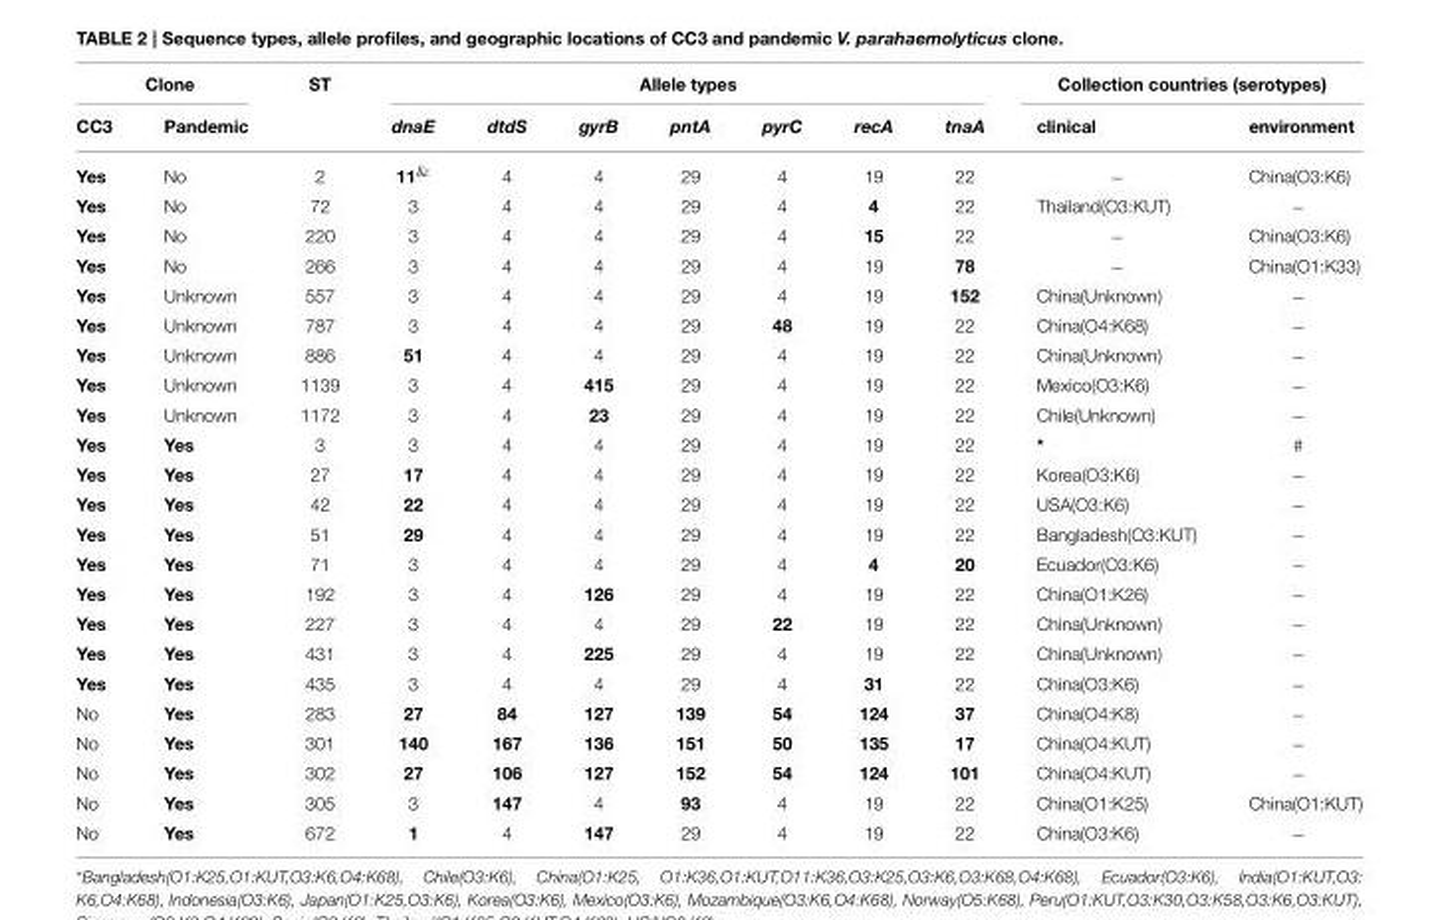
<table><thead><tr><td colspan="2">Clone</td><td rowspan="2">ST</td><td colspan="7">Allele types</td><td colspan="2">Collection countries (serotypes)</td></tr><tr><td>CC3</td><td>Pandemic</td><td>dnaE</td><td>dtdS</td><td>gyrB</td><td>pntA</td><td>pyrC</td><td>recA</td><td>tnaA</td><td>clinical</td><td>environment</td></tr></thead><tbody><tr><td>Yes</td><td>No</td><td>2</td><td>11<sup>&amp;</sup></td><td>4</td><td>4</td><td>29</td><td>4</td><td>19</td><td>22</td><td>−</td><td>China(O3:K6)</td></tr><tr><td>Yes</td><td>No</td><td>72</td><td>3</td><td>4</td><td>4</td><td>29</td><td>4</td><td>4</td><td>22</td><td>Thailand(O3:KUT)</td><td>−</td></tr><tr><td>Yes</td><td>No</td><td>220</td><td>3</td><td>4</td><td>4</td><td>29</td><td>4</td><td>15</td><td>22</td><td>−</td><td>China(O3:K6)</td></tr><tr><td>Yes</td><td>No</td><td>266</td><td>3</td><td>4</td><td>4</td><td>29</td><td>4</td><td>19</td><td>78</td><td>−</td><td>China(O1:K33)</td></tr><tr><td>Yes</td><td>Unknown</td><td>557</td><td>3</td><td>4</td><td>4</td><td>29</td><td>4</td><td>19</td><td>152</td><td>China(Unknown)</td><td>−</td></tr><tr><td>Yes</td><td>Unknown</td><td>787</td><td>3</td><td>4</td><td>4</td><td>29</td><td>48</td><td>19</td><td>22</td><td>China(O4:K68)</td><td>−</td></tr><tr><td>Yes</td><td>Unknown</td><td>886</td><td>51</td><td>4</td><td>4</td><td>29</td><td>4</td><td>19</td><td>22</td><td>China(Unknown)</td><td>−</td></tr><tr><td>Yes</td><td>Unknown</td><td>1139</td><td>3</td><td>4</td><td>415</td><td>29</td><td>4</td><td>19</td><td>22</td><td>Mexico(O3:K6)</td><td>−</td></tr><tr><td>Yes</td><td>Unknown</td><td>1172</td><td>3</td><td>4</td><td>23</td><td>29</td><td>4</td><td>19</td><td>22</td><td>Chile(Unknown)</td><td>−</td></tr><tr><td>Yes</td><td>Yes</td><td>3</td><td>3</td><td>4</td><td>4</td><td>29</td><td>4</td><td>19</td><td>22</td><td>*</td><td><sup>#</sup></td></tr><tr><td>Yes</td><td>Yes</td><td>27</td><td>17</td><td>4</td><td>4</td><td>29</td><td>4</td><td>19</td><td>22</td><td>Korea(O3:K6)</td><td>−</td></tr><tr><td>Yes</td><td>Yes</td><td>42</td><td>22</td><td>4</td><td>4</td><td>29</td><td>4</td><td>19</td><td>22</td><td>USA(O3:K6)</td><td>−</td></tr><tr><td>Yes</td><td>Yes</td><td>51</td><td>29</td><td>4</td><td>4</td><td>29</td><td>4</td><td>19</td><td>22</td><td>Bangladesh(O3:KUT)</td><td>−</td></tr><tr><td>Yes</td><td>Yes</td><td>71</td><td>3</td><td>4</td><td>4</td><td>29</td><td>4</td><td>4</td><td>20</td><td>Ecuador(O3:K6)</td><td>−</td></tr><tr><td>Yes</td><td>Yes</td><td>192</td><td>3</td><td>4</td><td>126</td><td>29</td><td>4</td><td>19</td><td>22</td><td>China(O1:K26)</td><td>−</td></tr><tr><td>Yes</td><td>Yes</td><td>227</td><td>3</td><td>4</td><td>4</td><td>29</td><td>22</td><td>19</td><td>22</td><td>China(Unknown)</td><td>−</td></tr><tr><td>Yes</td><td>Yes</td><td>431</td><td>3</td><td>4</td><td>225</td><td>29</td><td>4</td><td>19</td><td>22</td><td>China(Unknown)</td><td>−</td></tr><tr><td>Yes</td><td>Yes</td><td>435</td><td>3</td><td>4</td><td>4</td><td>29</td><td>4</td><td>31</td><td>22</td><td>China(O3:K6)</td><td>−</td></tr><tr><td>No</td><td>Yes</td><td>283</td><td>27</td><td>84</td><td>127</td><td>139</td><td>54</td><td>124</td><td>37</td><td>China(O4:K8)</td><td>−</td></tr><tr><td>No</td><td>Yes</td><td>301</td><td>140</td><td>167</td><td>136</td><td>151</td><td>50</td><td>135</td><td>17</td><td>China(O4:KUT)</td><td>−</td></tr><tr><td>No</td><td>Yes</td><td>302</td><td>27</td><td>106</td><td>127</td><td>152</td><td>54</td><td>124</td><td>101</td><td>China(O4:KUT)</td><td>−</td></tr><tr><td>No</td><td>Yes</td><td>305</td><td>3</td><td>147</td><td>4</td><td>93</td><td>4</td><td>19</td><td>22</td><td>China(O1:K25)</td><td>China(O1:KUT)</td></tr><tr><td>No</td><td>Yes</td><td>672</td><td>1</td><td>4</td><td>147</td><td>29</td><td>4</td><td>19</td><td>22</td><td>China(O3:K6)</td><td>−</td></tr></tbody></table>